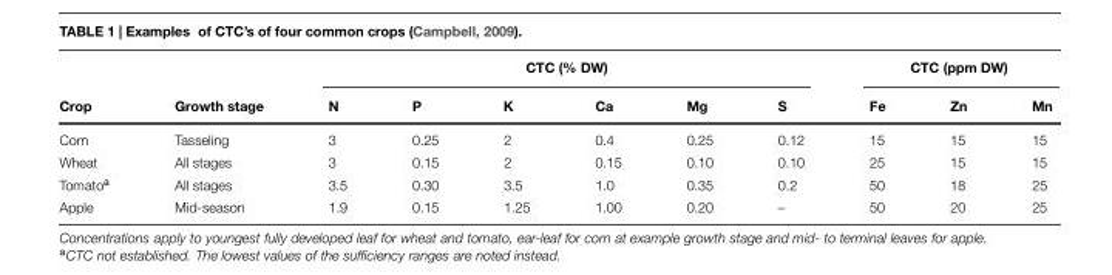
<table><thead><tr><td rowspan="2">Crop</td><td rowspan="2">Growth stage</td><td colspan="6">CTC (% DW)</td><td colspan="3">CTC (ppm DW)</td></tr><tr><td>N</td><td>P</td><td>K</td><td>Ca</td><td>Mg</td><td>S</td><td>Fe</td><td>Zn</td><td>Mn</td></tr></thead><tbody><tr><td>Corn</td><td>Tasseling</td><td>3</td><td>0.25</td><td>2</td><td>0.4</td><td>0.25</td><td>0.12</td><td>15</td><td>15</td><td>15</td></tr><tr><td>Wheat</td><td>All stages</td><td>3</td><td>0.15</td><td>2</td><td>0.15</td><td>0.10</td><td>0.10</td><td>25</td><td>15</td><td>15</td></tr><tr><td>Tomato<sup>a</sup></td><td>All stages</td><td>3.5</td><td>0.30</td><td>3.5</td><td>1.0</td><td>0.35</td><td>0.2</td><td>50</td><td>18</td><td>25</td></tr><tr><td>Apple</td><td>Mid-season</td><td>1.9</td><td>0.15</td><td>1.25</td><td>1.00</td><td>0.20</td><td>–</td><td>50</td><td>20</td><td>25</td></tr></tbody></table>